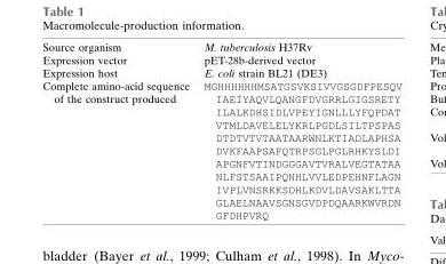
<table><tbody><tr><td>Source organism</td><td>M. tuberculosis H37Rv</td></tr><tr><td>Expression vector</td><td>pET-28b-derived vector</td></tr><tr><td>Expression host</td><td>E. coli strain BL21 (DE3)</td></tr><tr><td>Complete amino-acid sequence of the construct produced</td><td>MGHHHHHHMSATGSVKSIVVGSGDFPESQV IAEIYAQVLQANGFDVGRRLGIGSRETY ILALKDHSIDLVPEYIGNLLLYFQPDAT VTMLDAVELELYKRLPGDLSILTPSPAS DTDTVTVTAATAARWNLKTIADLAPHSA DVKFAAPSAFQTRPSGLPGLRHKYSLDI APGNFVTINDGGGAVTVRALVEGTATAA NLFSTSAAIPQNHLVVLEDPEHNFLAGN IVPLVNSRKKSDHLKDVLDAVSAKLTTA GLAELNAAVSGNSGVDPDQAARKWVRDN GFDHPVRQ</td></tr></tbody></table>